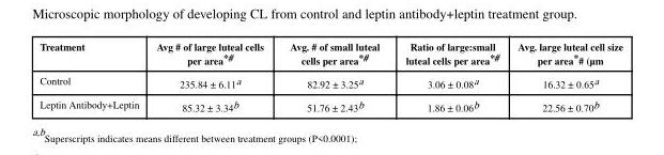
<table><thead><tr><td>Treatment</td><td>Avg # of large luteal cells per area*#</td><td>Avg. # of small luteal cells per area*#</td><td>Ratio of large:small luteal cells per area*#</td><td>Avg. large luteal cell size per area*# (μm</td></tr></thead><tbody><tr><td>Control</td><td>235.84 ± 6.11<sup>a</sup></td><td>82.92 ± 3.25<sup>a</sup></td><td>3.06 ± 0.08<sup>a</sup></td><td>16.32 ± 0.65<sup>a</sup></td></tr><tr><td>Leptin Antibody+Leptin</td><td>85.32 ± 3.34<sup>b</sup></td><td>51.76 ± 2.43<sup>b</sup></td><td>1.86 ± 0.06<sup>b</sup></td><td>22.56 ± 0.70<sup>b</sup></td></tr></tbody></table>